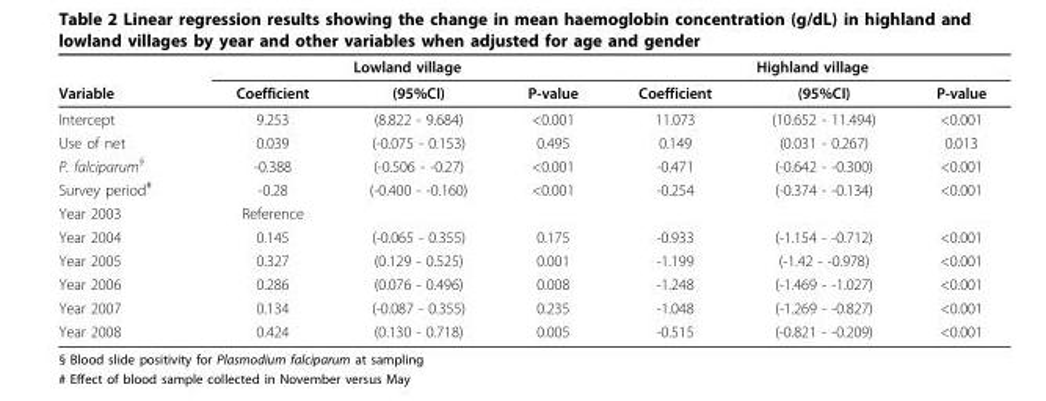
<table><thead><tr><td rowspan="2">Variable</td><td colspan="3">Lowland village</td><td colspan="3">Highland village</td></tr><tr><td>Coefficient</td><td>(95%CI)</td><td>P-value</td><td>Coefficient</td><td>(95%CI)</td><td>P-value</td></tr></thead><tbody><tr><td>Intercept</td><td>9.253</td><td>(8.822 - 9.684)</td><td>&lt;0.001</td><td>11.073</td><td>(10.652 - 11.494)</td><td>&lt;0.001</td></tr><tr><td>Use of net</td><td>0.039</td><td>(-0.075 - 0.153)</td><td>0.495</td><td>0.149</td><td>(0.031 - 0.267)</td><td>0.013</td></tr><tr><td>P. falciparum<sup>§</sup></td><td>-0.388</td><td>(-0.506 - -0.27)</td><td>&lt;0.001</td><td>-0.471</td><td>(-0.642 - -0.300)</td><td>&lt;0.001</td></tr><tr><td>Survey period<sup>#</sup></td><td>-0.28</td><td>(-0.400 - -0.160)</td><td>&lt;0.001</td><td>-0.254</td><td>(-0.374 - -0.134)</td><td>&lt;0.001</td></tr><tr><td>Year 2003</td><td>Reference</td><td></td><td></td><td></td><td></td><td></td></tr><tr><td>Year 2004</td><td>0.145</td><td>(-0.065 - 0.355)</td><td>0.175</td><td>-0.933</td><td>(-1.154 - -0.712)</td><td>&lt;0.001</td></tr><tr><td>Year 2005</td><td>0.327</td><td>(0.129 - 0.525)</td><td>0.001</td><td>-1.199</td><td>(-1.42 - -0.978)</td><td>&lt;0.001</td></tr><tr><td>Year 2006</td><td>0.286</td><td>(0.076 - 0.496)</td><td>0.008</td><td>-1.248</td><td>(-1.469 - -1.027)</td><td>&lt;0.001</td></tr><tr><td>Year 2007</td><td>0.134</td><td>(-0.087 - 0.355)</td><td>0.235</td><td>-1.048</td><td>(-1.269 - -0.827)</td><td>&lt;0.001</td></tr><tr><td>Year 2008</td><td>0.424</td><td>(0.130 - 0.718)</td><td>0.005</td><td>-0.515</td><td>(-0.821 - -0.209)</td><td>&lt;0.001</td></tr></tbody></table>